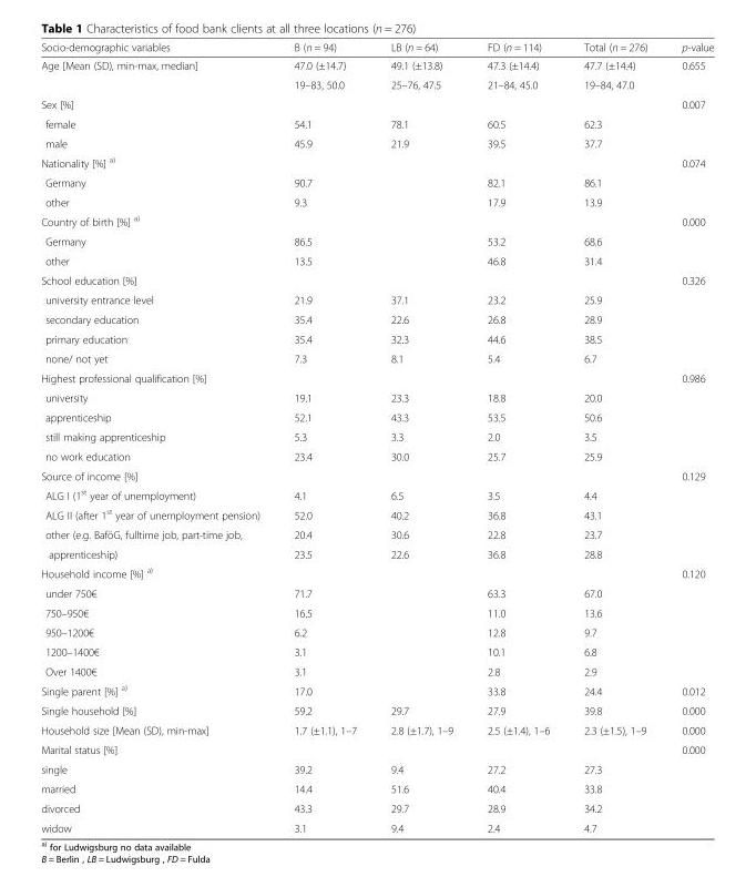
<table><thead><tr><td>Socio-demographic variables</td><td>B (n = 94)</td><td>LB (n = 64)</td><td>FD (n = 114)</td><td>Total (n = 276)</td><td>p-value</td></tr></thead><tbody><tr><td rowspan="2">Age [Mean (SD), min-max, median]</td><td>47.0 (±14.7)</td><td>49.1 (±13.8)</td><td>47.3 (±14.4)</td><td>47.7 (±14.4)</td><td>0.655</td></tr><tr><td>19–83, 50.0</td><td>25–76, 47.5</td><td>21–84, 45.0</td><td>19–84, 47.0</td><td></td></tr><tr><td>Sex [%]</td><td></td><td></td><td></td><td></td><td>0.007</td></tr><tr><td>female</td><td>54.1</td><td>78.1</td><td>60.5</td><td>62.3</td><td></td></tr><tr><td>male</td><td>45.9</td><td>21.9</td><td>39.5</td><td>37.7</td><td></td></tr><tr><td>Nationality [%] <sup>a)</sup></td><td></td><td></td><td></td><td></td><td>0.074</td></tr><tr><td>Germany</td><td>90.7</td><td></td><td>82.1</td><td>86.1</td><td></td></tr><tr><td>other</td><td>9.3</td><td></td><td>17.9</td><td>13.9</td><td></td></tr><tr><td>Country of birth [%] <sup>a)</sup></td><td></td><td></td><td></td><td></td><td>0.000</td></tr><tr><td>Germany</td><td>86.5</td><td></td><td>53.2</td><td>68.6</td><td></td></tr><tr><td>other</td><td>13.5</td><td></td><td>46.8</td><td>31.4</td><td></td></tr><tr><td>School education [%]</td><td></td><td></td><td></td><td></td><td>0.326</td></tr><tr><td>university entrance level</td><td>21.9</td><td>37.1</td><td>23.2</td><td>25.9</td><td></td></tr><tr><td>secondary education</td><td>35.4</td><td>22.6</td><td>26.8</td><td>28.9</td><td></td></tr><tr><td>primary education</td><td>35.4</td><td>32.3</td><td>44.6</td><td>38.5</td><td></td></tr><tr><td>none/ not yet</td><td>7.3</td><td>8.1</td><td>5.4</td><td>6.7</td><td></td></tr><tr><td>Highest professional qualification [%]</td><td></td><td></td><td></td><td></td><td>0.986</td></tr><tr><td>university</td><td>19.1</td><td>23.3</td><td>18.8</td><td>20.0</td><td></td></tr><tr><td>apprenticeship</td><td>52.1</td><td>43.3</td><td>53.5</td><td>50.6</td><td></td></tr><tr><td>still making apprenticeship</td><td>5.3</td><td>3.3</td><td>2.0</td><td>3.5</td><td></td></tr><tr><td>no work education</td><td>23.4</td><td>30.0</td><td>25.7</td><td>25.9</td><td></td></tr><tr><td>Source of income [%]</td><td></td><td></td><td></td><td></td><td>0.129</td></tr><tr><td>ALG I (1<sup>st</sup> year of unemployment)</td><td>4.1</td><td>6.5</td><td>3.5</td><td>4.4</td><td></td></tr><tr><td>ALG II (after 1<sup>st</sup> year of unemployment pension)</td><td>52.0</td><td>40.2</td><td>36.8</td><td>43.1</td><td></td></tr><tr><td>other (e.g. BaföG, fulltime job, part-time job,</td><td>20.4</td><td>30.6</td><td>22.8</td><td>23.7</td><td></td></tr><tr><td>apprenticeship)</td><td>23.5</td><td>22.6</td><td>36.8</td><td>28.8</td><td></td></tr><tr><td>Household income [%] <sup>a)</sup></td><td></td><td></td><td></td><td></td><td>0.120</td></tr><tr><td>under 750€</td><td>71.7</td><td></td><td>63.3</td><td>67.0</td><td></td></tr><tr><td>750–950€</td><td>16.5</td><td></td><td>11.0</td><td>13.6</td><td></td></tr><tr><td>950–1200€</td><td>6.2</td><td></td><td>12.8</td><td>9.7</td><td></td></tr><tr><td>1200–1400€</td><td>3.1</td><td></td><td>10.1</td><td>6.8</td><td></td></tr><tr><td>Over 1400€</td><td>3.1</td><td></td><td>2.8</td><td>2.9</td><td></td></tr><tr><td>Single parent [%] <sup>a)</sup></td><td>17.0</td><td></td><td>33.8</td><td>24.4</td><td>0.012</td></tr><tr><td>Single household [%]</td><td>59.2</td><td>29.7</td><td>27.9</td><td>39.8</td><td>0.000</td></tr><tr><td>Household size [Mean (SD), min-max]</td><td>1.7 (±1.1), 1–7</td><td>2.8 (±1.7), 1–9</td><td>2.5 (±1.4), 1–6</td><td>2.3 (±1.5), 1–9</td><td>0.000</td></tr><tr><td>Marital status [%]</td><td></td><td></td><td></td><td></td><td>0.000</td></tr><tr><td>single</td><td>39.2</td><td>9.4</td><td>27.2</td><td>27.3</td><td></td></tr><tr><td>married</td><td>14.4</td><td>51.6</td><td>40.4</td><td>33.8</td><td></td></tr><tr><td>divorced</td><td>43.3</td><td>29.7</td><td>28.9</td><td>34.2</td><td></td></tr><tr><td>widow</td><td>3.1</td><td>9.4</td><td>2.4</td><td>4.7</td><td></td></tr></tbody></table>